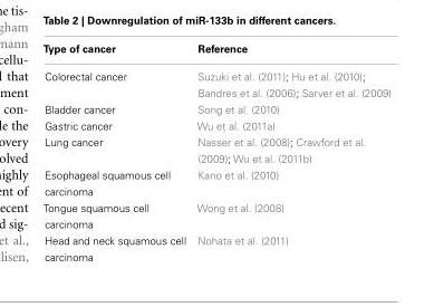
<table><thead><tr><td>Type of cancer</td><td>Reference</td></tr></thead><tbody><tr><td>Colorectal cancer</td><td>Suzuki et al. (2011); Hu et al. (2010); Bandres et al. (2006); Sarver et al. (2009)</td></tr><tr><td>Bladder cancer</td><td>Song et al. (2010)</td></tr><tr><td>Gastric cancer</td><td>Wu et al. (2011a)</td></tr><tr><td>Lung cancer</td><td>Nasser et al. (2008); Crawford et al. (2009); Wu et al. (2011b)</td></tr><tr><td>Esophageal squamous cell carcinoma</td><td>Kano et al. (2010)</td></tr><tr><td>Tongue squamous cell carcinoma</td><td>Wong et al. (2008)</td></tr><tr><td>Head and neck squamous cell carcinoma</td><td>Nohata et al. (2011)</td></tr></tbody></table>